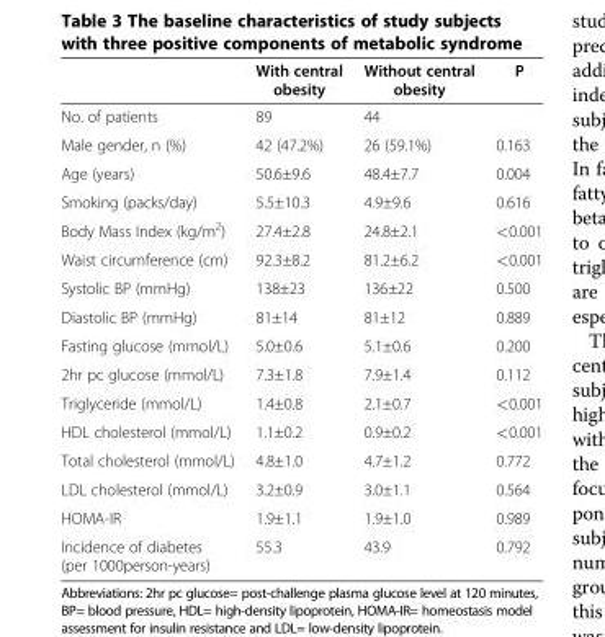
<table><thead><tr><td></td><td>With central obesity</td><td>Without central obesity</td><td>P</td></tr></thead><tbody><tr><td>No. of patients</td><td>89</td><td>44</td><td></td></tr><tr><td>Male gender, n (%)</td><td>42 (47.2%)</td><td>26 (59.1%)</td><td>0.163</td></tr><tr><td>Age (years)</td><td>50.6±9.6</td><td>48.4±7.7</td><td>0.004</td></tr><tr><td>Smoking (packs/day)</td><td>5.5±10.3</td><td>4.9±9.6</td><td>0.616</td></tr><tr><td>Body Mass Index (kg/m<sup>2</sup>)</td><td>27.4±2.8</td><td>24.8±2.1</td><td>&lt;0.001</td></tr><tr><td>Waist circumference (cm)</td><td>92.3±8.2</td><td>81.2±6.2</td><td>&lt;0.001</td></tr><tr><td>Systolic BP (mmHg)</td><td>138±23</td><td>136±22</td><td>0.500</td></tr><tr><td>Diastolic BP (mmHg)</td><td>81±14</td><td>81±12</td><td>0.889</td></tr><tr><td>Fasting glucose (mmol/L)</td><td>5.0±0.6</td><td>5.1±0.6</td><td>0.200</td></tr><tr><td>2hr pc glucose (mmol/L)</td><td>7.3±1.8</td><td>7.9±1.4</td><td>0.112</td></tr><tr><td>Triglyceride (mmol/L)</td><td>1.4±0.8</td><td>2.1±0.7</td><td>&lt;0.001</td></tr><tr><td>HDL cholesterol (mmol/L)</td><td>1.1±0.2</td><td>0.9±0.2</td><td>&lt;0.001</td></tr><tr><td>Total cholesterol (mmol/L)</td><td>4.8±1.0</td><td>4.7±1.2</td><td>0.772</td></tr><tr><td>LDL cholesterol (mmol/L)</td><td>3.2±0.9</td><td>3.0±1.1</td><td>0.564</td></tr><tr><td>HOMA-IR</td><td>1.9±1.1</td><td>1.9±1.0</td><td>0.989</td></tr><tr><td>Incidence of diabetes (per 1000person-years)</td><td>55.3</td><td>43.9</td><td>0.792</td></tr></tbody></table>